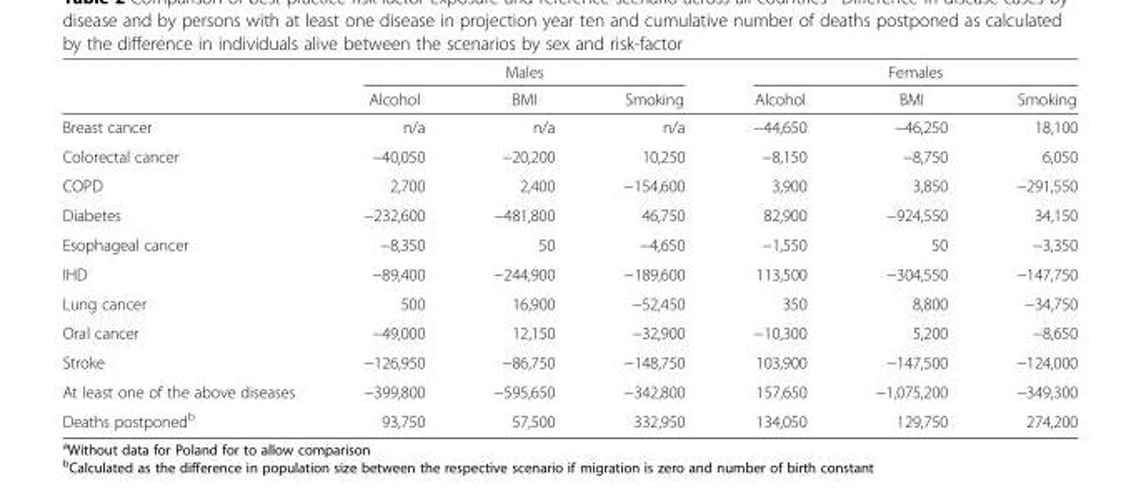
<table><thead><tr><td rowspan="2"></td><td colspan="3">Males</td><td colspan="3">Females</td></tr><tr><td>Alcohol</td><td>BMI</td><td>Smoking</td><td>Alcohol</td><td>BMI</td><td>Smoking</td></tr></thead><tbody><tr><td>Breast cancer</td><td>n/a</td><td>n/a</td><td>n/a</td><td>−44,650</td><td>−46,250</td><td>18,100</td></tr><tr><td>Colorectal cancer</td><td>−40,050</td><td>−20,200</td><td>10,250</td><td>−8,150</td><td>−8,750</td><td>6,050</td></tr><tr><td>COPD</td><td>2,700</td><td>2,400</td><td>−154,600</td><td>3,900</td><td>3,850</td><td>−291,550</td></tr><tr><td>Diabetes</td><td>−232,600</td><td>−481,800</td><td>46,750</td><td>82,900</td><td>−924,550</td><td>34,150</td></tr><tr><td>Esophageal cancer</td><td>−8,350</td><td>50</td><td>−4,650</td><td>−1,550</td><td>50</td><td>−3,350</td></tr><tr><td>IHD</td><td>−89,400</td><td>−244,900</td><td>−189,600</td><td>113,500</td><td>−304,550</td><td>−147,750</td></tr><tr><td>Lung cancer</td><td>500</td><td>16,900</td><td>−52,450</td><td>350</td><td>8,800</td><td>−34,750</td></tr><tr><td>Oral cancer</td><td>−49,000</td><td>12,150</td><td>−32,900</td><td>−10,300</td><td>5,200</td><td>−8,650</td></tr><tr><td>Stroke</td><td>−126,950</td><td>−86,750</td><td>−148,750</td><td>103,900</td><td>−147,500</td><td>−124,000</td></tr><tr><td>At least one of the above diseases</td><td>−399,800</td><td>−595,650</td><td>−342,800</td><td>157,650</td><td>−1,075,200</td><td>−349,300</td></tr><tr><td>Deaths postponed<sup>b</sup></td><td>93,750</td><td>57,500</td><td>332,950</td><td>134,050</td><td>129,750</td><td>274,200</td></tr></tbody></table>